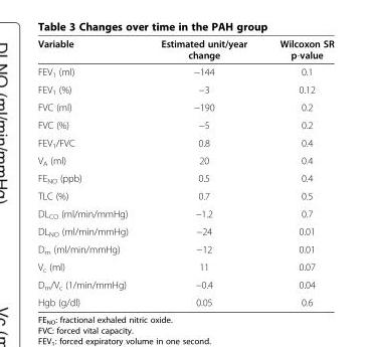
<table><thead><tr><td>Variable</td><td>Estimated unit/year change</td><td>Wilcoxon SR p-value</td></tr></thead><tbody><tr><td>FEV<sub>1</sub> (ml)</td><td>−144</td><td>0.1</td></tr><tr><td>FEV<sub>1</sub> (%)</td><td>−3</td><td>0.12</td></tr><tr><td>FVC (ml)</td><td>−190</td><td>0.2</td></tr><tr><td>FVC (%)</td><td>−5</td><td>0.2</td></tr><tr><td>FEV<sub>1</sub>/FVC</td><td>0.8</td><td>0.4</td></tr><tr><td>V<sub>A</sub> (ml)</td><td>20</td><td>0.4</td></tr><tr><td>FE<sub>NO</sub> (ppb)</td><td>0.5</td><td>0.4</td></tr><tr><td>TLC (%)</td><td>0.7</td><td>0.5</td></tr><tr><td>DL<sub>CO</sub> (ml/min/mmHg)</td><td>−1.2</td><td>0.7</td></tr><tr><td>DL<sub>NO</sub> (ml/min/mmHg)</td><td>−24</td><td>0.01</td></tr><tr><td>D<sub>m</sub> (ml/min/mmHg)</td><td>−12</td><td>0.01</td></tr><tr><td>V<sub>c</sub> (ml)</td><td>11</td><td>0.07</td></tr><tr><td>D<sub>m</sub>/V<sub>c</sub> (1/min/mmHg)</td><td>−0.4</td><td>0.04</td></tr><tr><td>Hgb (g/dl)</td><td>0.05</td><td>0.6</td></tr></tbody></table>